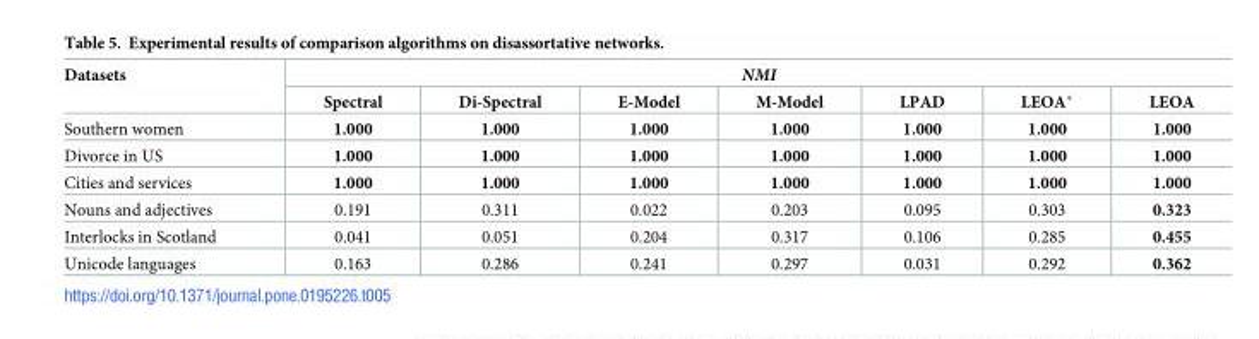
<table><thead><tr><td rowspan="2">Datasets</td><td colspan="7">NMI</td></tr><tr><td>Spectral</td><td>Di-Spectral</td><td>E-Model</td><td>M-Model</td><td>LPAD</td><td>LEOA*</td><td>LEOA</td></tr></thead><tbody><tr><td>Southern women</td><td>1.000</td><td>1.000</td><td>1.000</td><td>1.000</td><td>1.000</td><td>1.000</td><td>1.000</td></tr><tr><td>Divorce in US</td><td>1.000</td><td>1.000</td><td>1.000</td><td>1.000</td><td>1.000</td><td>1.000</td><td>1.000</td></tr><tr><td>Cities and services</td><td>1.000</td><td>1.000</td><td>1.000</td><td>1.000</td><td>1.000</td><td>1.000</td><td>1.000</td></tr><tr><td>Nouns and adjectives</td><td>0.191</td><td>0.311</td><td>0.022</td><td>0.203</td><td>0.095</td><td>0.303</td><td>0.323</td></tr><tr><td>Interlocks in Scotland</td><td>0.041</td><td>0.051</td><td>0.204</td><td>0.317</td><td>0.106</td><td>0.285</td><td>0.455</td></tr><tr><td>Unicode languages</td><td>0.163</td><td>0.286</td><td>0.241</td><td>0.297</td><td>0.031</td><td>0.292</td><td>0.362</td></tr></tbody></table>